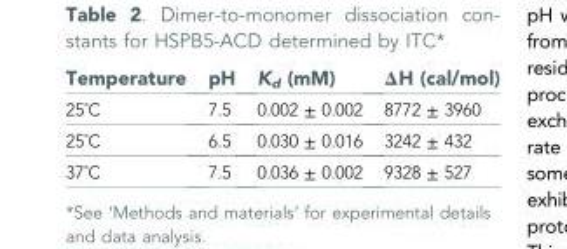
<table><thead><tr><td>Temperature</td><td>pH</td><td>K<sub>d</sub> (mM)</td><td>ΔH (cal/mol)</td></tr></thead><tbody><tr><td>25˚C</td><td>7.5</td><td>0.002 ± 0.002</td><td>8772 ± 3960</td></tr><tr><td>25˚C</td><td>6.5</td><td>0.030 ± 0.016</td><td>3242 ± 432</td></tr><tr><td>37˚C</td><td>7.5</td><td>0.036 ± 0.002</td><td>9328 ± 527</td></tr></tbody></table>